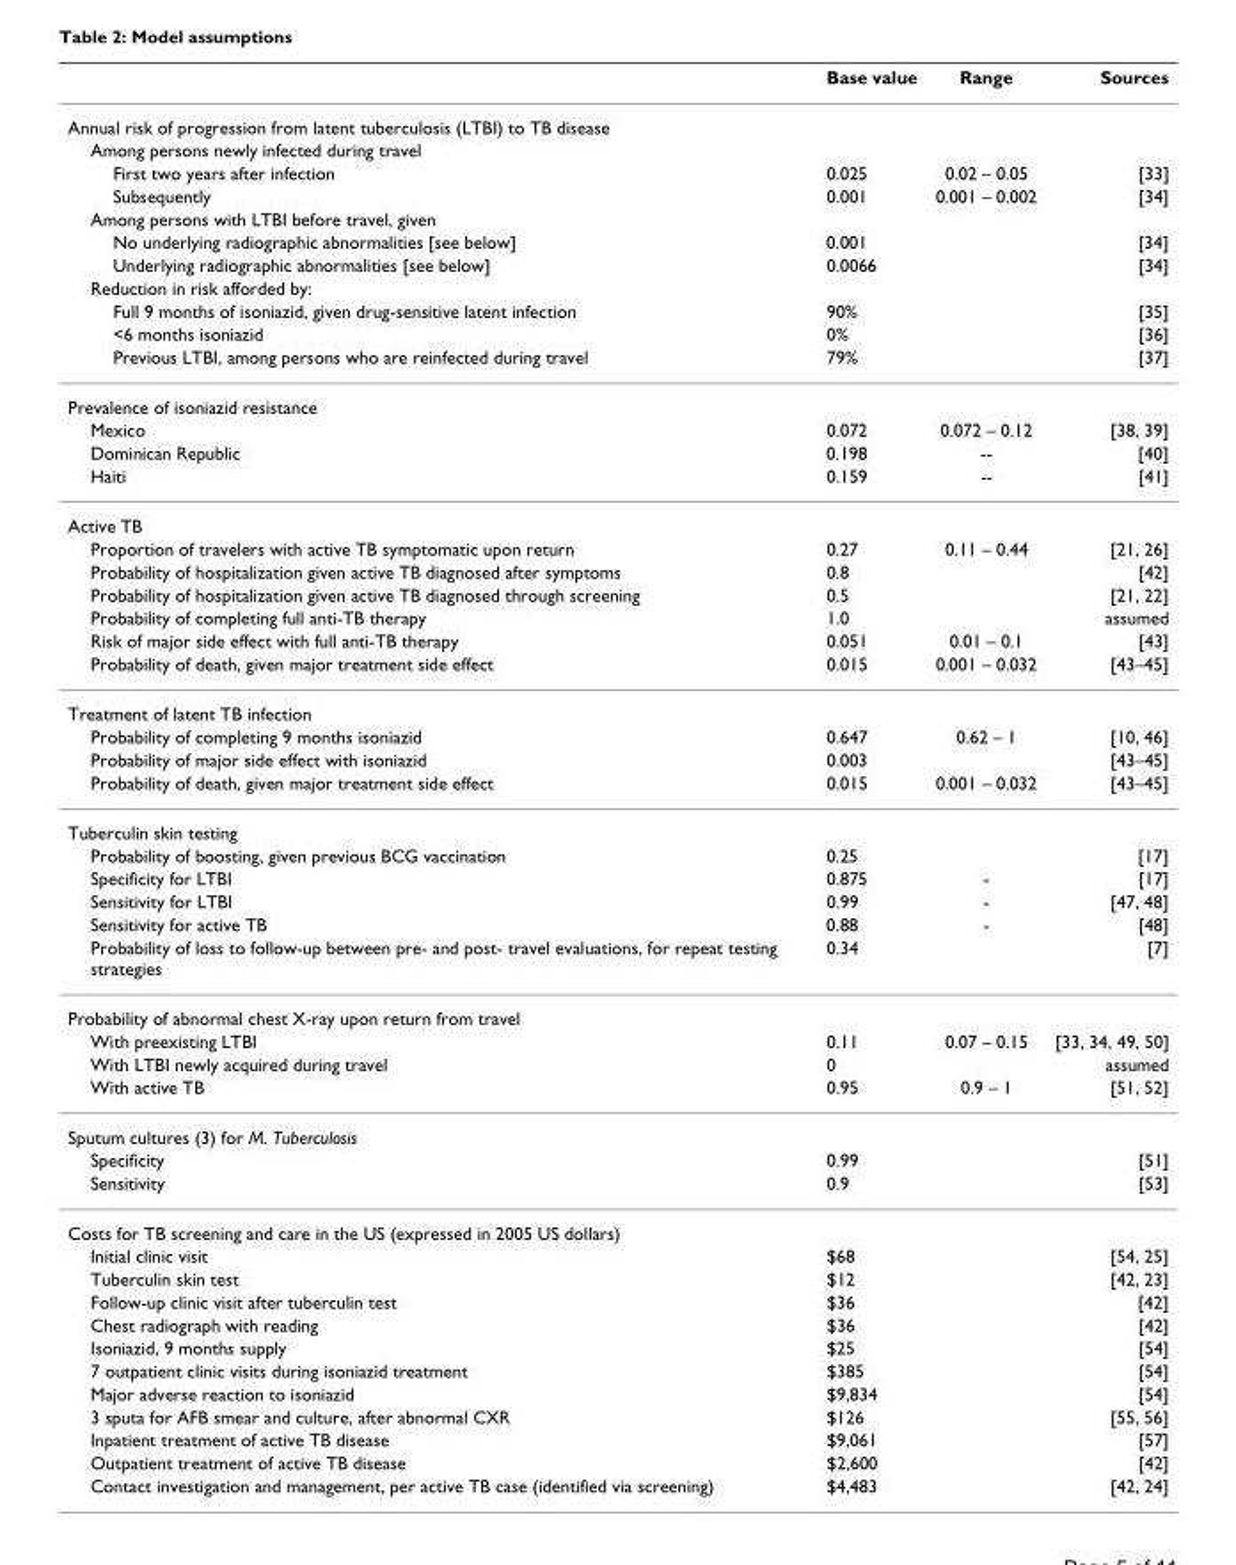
<table><thead><tr><td></td><td>Base value</td><td>Range</td><td>Sources</td></tr></thead><tbody><tr><td colspan="4">Annual risk of progression from latent tuberculosis (LTBI) to TB disease</td></tr><tr><td colspan="4">Among persons newly infected during travel</td></tr><tr><td>First two years after infection</td><td>0.025</td><td>0.02 – 0.05</td><td>[33]</td></tr><tr><td>Subsequently</td><td>0.001</td><td>0.001 – 0.002</td><td>[34]</td></tr><tr><td colspan="4">Among persons with LTBI before travel, given</td></tr><tr><td>No underlying radiographic abnormalities [see below]</td><td>0.001</td><td></td><td>[34]</td></tr><tr><td>Underlying radiographic abnormalities [see below]</td><td>0.0066</td><td></td><td>[34]</td></tr><tr><td colspan="4">Reduction in risk afforded by:</td></tr><tr><td>Full 9 months of isoniazid, given drug-sensitive latent infection</td><td>90%</td><td></td><td>[35]</td></tr><tr><td>&lt;6 months isoniazid</td><td>0%</td><td></td><td>[36]</td></tr><tr><td>Previous LTBI, among persons who are reinfected during travel</td><td>79%</td><td></td><td>[37]</td></tr><tr><td colspan="4">Prevalence of isoniazid resistance</td></tr><tr><td>Mexico</td><td>0.072</td><td>0.072 – 0.12</td><td>[38, 39]</td></tr><tr><td>Dominican Republic</td><td>0.198</td><td>--</td><td>[40]</td></tr><tr><td>Haiti</td><td>0.159</td><td>--</td><td>[41]</td></tr><tr><td colspan="4">Active TB</td></tr><tr><td>Proportion of travelers with active TB symptomatic upon return</td><td>0.27</td><td>0.11 – 0.44</td><td>[21, 26]</td></tr><tr><td>Probability of hospitalization given active TB diagnosed after symptoms</td><td>0.8</td><td></td><td>[42]</td></tr><tr><td>Probability of hospitalization given active TB diagnosed through screening</td><td>0.5</td><td></td><td>[21, 22]</td></tr><tr><td>Probability of completing full anti-TB therapy</td><td>1.0</td><td></td><td>assumed</td></tr><tr><td>Risk of major side effect with full anti-TB therapy</td><td>0.051</td><td>0.01 – 0.1</td><td>[43]</td></tr><tr><td>Probability of death, given major treatment side effect</td><td>0.015</td><td>0.001 – 0.032</td><td>[43–45]</td></tr><tr><td colspan="4">Treatment of latent TB infection</td></tr><tr><td>Probability of completing 9 months isoniazid</td><td>0.647</td><td>0.62 – 1</td><td>[10, 46]</td></tr><tr><td>Probability of major side effect with isoniazid</td><td>0.003</td><td></td><td>[43–45]</td></tr><tr><td>Probability of death, given major treatment side effect</td><td>0.015</td><td>0.001 – 0.032</td><td>[43–45]</td></tr><tr><td colspan="4">Tuberculin skin testing</td></tr><tr><td>Probability of boosting, given previous BCG vaccination</td><td>0.25</td><td></td><td>[17]</td></tr><tr><td>Specificity for LTBI</td><td>0.875</td><td>-</td><td>[17]</td></tr><tr><td>Sensitivity for LTBI</td><td>0.99</td><td>-</td><td>[47, 48]</td></tr><tr><td>Sensitivity for active TB</td><td>0.88</td><td>-</td><td>[48]</td></tr><tr><td>Probability of loss to follow-up between pre- and post- travel evaluations, for repeat testing strategies</td><td>0.34</td><td></td><td>[7]</td></tr><tr><td colspan="4">Probability of abnormal chest X-ray upon return from travel</td></tr><tr><td>With preexisting LTBI</td><td>0.11</td><td>0.07 – 0.15</td><td>[33, 34, 49, 50]</td></tr><tr><td>With LTBI newly acquired during travel</td><td>0</td><td></td><td>assumed</td></tr><tr><td>With active TB</td><td>0.95</td><td>0.9 – 1</td><td>[51, 52]</td></tr><tr><td colspan="4">Sputum cultures (3) for M. Tuberculosis</td></tr><tr><td>Specificity</td><td>0.99</td><td></td><td>[51]</td></tr><tr><td>Sensitivity</td><td>0.9</td><td></td><td>[53]</td></tr><tr><td colspan="4">Costs for TB screening and care in the US (expressed in 2005 US dollars)</td></tr><tr><td>Initial clinic visit</td><td>$68</td><td></td><td>[54, 25]</td></tr><tr><td>Tuberculin skin test</td><td>$12</td><td></td><td>[42, 23]</td></tr><tr><td>Follow-up clinic visit after tuberculin test</td><td>$36</td><td></td><td>[42]</td></tr><tr><td>Chest radiograph with reading</td><td>$36</td><td></td><td>[42]</td></tr><tr><td>Isoniazid, 9 months supply</td><td>$25</td><td></td><td>[54]</td></tr><tr><td>7 outpatient clinic visits during isoniazid treatment</td><td>$385</td><td></td><td>[54]</td></tr><tr><td>Major adverse reaction to isoniazid</td><td>$9,834</td><td></td><td>[54]</td></tr><tr><td>3 sputa for AFB smear and culture, after abnormal CXR</td><td>$126</td><td></td><td>[55, 56]</td></tr><tr><td>Inpatient treatment of active TB disease</td><td>$9,061</td><td></td><td>[57]</td></tr><tr><td>Outpatient treatment of active TB disease</td><td>$2,600</td><td></td><td>[42]</td></tr><tr><td>Contact investigation and management, per active TB case (identified via screening)</td><td>$4,483</td><td></td><td>[42, 24]</td></tr></tbody></table>